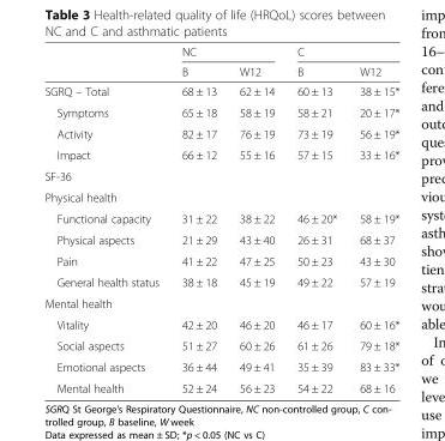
<table><thead><tr><td rowspan="2"></td><td colspan="2">NC</td><td colspan="2">C</td></tr><tr><td>B</td><td>W12</td><td>B</td><td>W12</td></tr></thead><tbody><tr><td>SGRQ – Total</td><td>68 ± 13</td><td>62 ± 14</td><td>60 ± 13</td><td>38 ± 15*</td></tr><tr><td>Symptoms</td><td>65 ± 18</td><td>58 ± 19</td><td>58 ± 21</td><td>20 ± 17*</td></tr><tr><td>Activity</td><td>82 ± 17</td><td>76 ± 19</td><td>73 ± 19</td><td>56 ± 19*</td></tr><tr><td>Impact</td><td>66 ± 12</td><td>55 ± 16</td><td>57 ± 15</td><td>33 ± 16*</td></tr><tr><td colspan="5">SF-36</td></tr><tr><td colspan="5">Physical health</td></tr><tr><td>Functional capacity</td><td>31 ± 22</td><td>38 ± 22</td><td>46 ± 20*</td><td>58 ± 19*</td></tr><tr><td>Physical aspects</td><td>21 ± 29</td><td>43 ± 40</td><td>26 ± 31</td><td>68 ± 37</td></tr><tr><td>Pain</td><td>41 ± 22</td><td>47 ± 25</td><td>50 ± 23</td><td>43 ± 30</td></tr><tr><td>General health status</td><td>38 ± 18</td><td>45 ± 19</td><td>49 ± 22</td><td>57 ± 19</td></tr><tr><td colspan="5">Mental health</td></tr><tr><td>Vitality</td><td>42 ± 20</td><td>46 ± 20</td><td>46 ± 17</td><td>60 ± 16*</td></tr><tr><td>Social aspects</td><td>51 ± 27</td><td>60 ± 26</td><td>61 ± 26</td><td>79 ± 18*</td></tr><tr><td>Emotional aspects</td><td>36 ± 44</td><td>49 ± 41</td><td>35 ± 39</td><td>83 ± 33*</td></tr><tr><td>Mental health</td><td>52 ± 24</td><td>56 ± 23</td><td>54 ± 22</td><td>68 ± 16</td></tr></tbody></table>